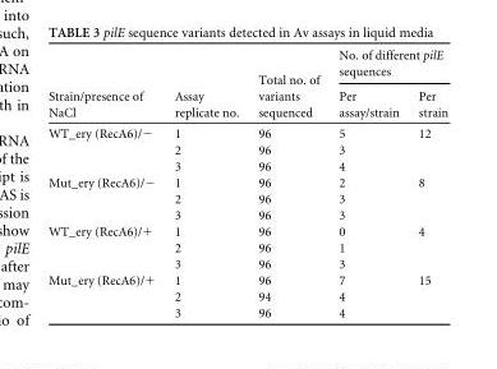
<table><thead><tr><td rowspan="2">Strain/presence of NaCl</td><td rowspan="2">Assay replicate no.</td><td rowspan="2">Total no. of variants sequenced</td><td colspan="2">No. of different pilE sequences</td></tr><tr><td>Per assay/strain</td><td>Per strain</td></tr></thead><tbody><tr><td rowspan="3">WT_ery (RecA6)/−</td><td>1</td><td>96</td><td>5</td><td>12</td></tr><tr><td>2</td><td>96</td><td>3</td><td></td></tr><tr><td>3</td><td>96</td><td>4</td><td></td></tr><tr><td rowspan="3">Mut_ery (RecA6)/−</td><td>1</td><td>96</td><td>2</td><td>8</td></tr><tr><td>2</td><td>96</td><td>3</td><td></td></tr><tr><td>3</td><td>96</td><td>3</td><td></td></tr><tr><td rowspan="3">WT_ery (RecA6)/+</td><td>1</td><td>96</td><td>0</td><td>4</td></tr><tr><td>2</td><td>96</td><td>1</td><td></td></tr><tr><td>3</td><td>96</td><td>3</td><td></td></tr><tr><td rowspan="3">Mut_ery (RecA6)/+</td><td>1</td><td>96</td><td>7</td><td>15</td></tr><tr><td>2</td><td>94</td><td>4</td><td></td></tr><tr><td>3</td><td>96</td><td>4</td><td></td></tr></tbody></table>